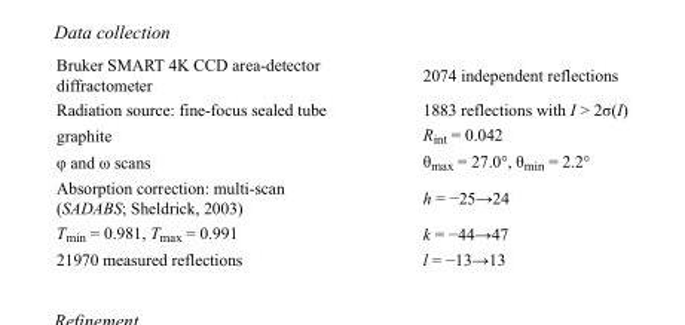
<table><tbody><tr><td>Bruker SMART 4K CCD area-detector diffractometer</td><td>2074 independent reflections</td></tr><tr><td>Radiation source: fine-focus sealed tube</td><td>1883 reflections with I &gt; 2σ(I)</td></tr><tr><td>graphite</td><td>R<sub>int</sub> = 0.042</td></tr><tr><td>φ and ω scans</td><td>θ<sub>max</sub> = 27.0°, θ<sub>min</sub> = 2.2°</td></tr><tr><td>Absorption correction: multi-scan (SADABS; Sheldrick, 2003)</td><td>h = −25→24</td></tr><tr><td>T<sub>min</sub> = 0.981, T<sub>max</sub> = 0.991</td><td>k = −44→47</td></tr><tr><td>21970 measured reflections</td><td>l = −13→13</td></tr></tbody></table>